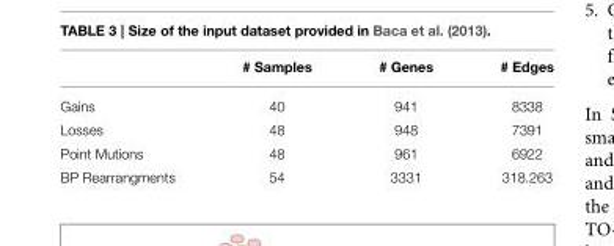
<table><thead><tr><td></td><td># Samples</td><td># Genes</td><td># Edges</td></tr></thead><tbody><tr><td>Gains</td><td>40</td><td>941</td><td>8338</td></tr><tr><td>Losses</td><td>48</td><td>948</td><td>7391</td></tr><tr><td>Point Mutions</td><td>48</td><td>961</td><td>6922</td></tr><tr><td>BP Rearrangments</td><td>54</td><td>3331</td><td>318.263</td></tr></tbody></table>